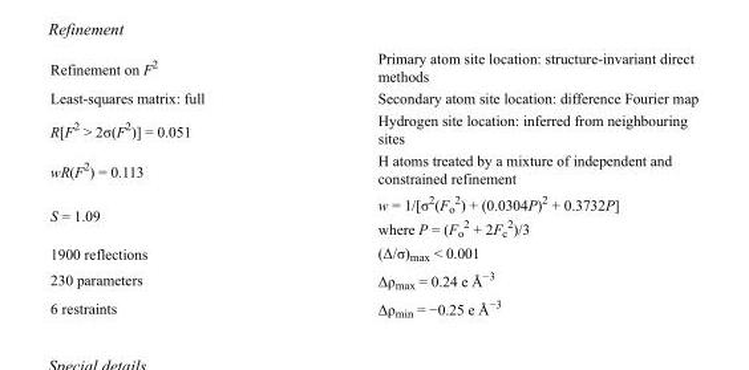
<table><tbody><tr><td>Refinement on F<sup>2</sup></td><td>Primary atom site location: structure-invariant direct methods</td></tr><tr><td>Least-squares matrix: full</td><td>Secondary atom site location: difference Fourier map</td></tr><tr><td>R[F<sup>2</sup> &gt; 2σ(F<sup>2</sup>)] = 0.051</td><td>Hydrogen site location: inferred from neighbouring sites</td></tr><tr><td>wR(F<sup>2</sup>) = 0.113</td><td>H atoms treated by a mixture of independent and constrained refinement</td></tr><tr><td>S = 1.09</td><td>w = 1/[σ<sup>2</sup>(F<sub>o</sub> <sup>2</sup>) + (0.0304P)<sup>2</sup> + 0.3732P] where P = (F<sub>o</sub> <sup>2</sup> + 2F<sub>c</sub> <sup>2</sup>)/3</td></tr><tr><td>1900 reflections</td><td>(Δ/σ)<sub>max</sub> &lt; 0.001</td></tr><tr><td>230 parameters</td><td>Δρ<sub>max</sub> = 0.24 e Å<sup>−3</sup></td></tr><tr><td>6 restraints</td><td>Δρ<sub>min</sub> = −0.25 e Å<sup>−3</sup></td></tr></tbody></table>